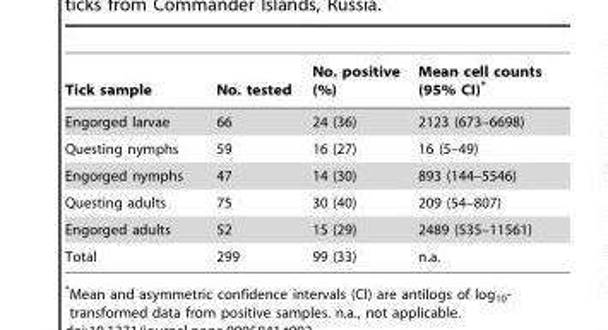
<table><thead><tr><td>Tick sample</td><td>No. tested</td><td>No. positive (%)</td><td>Mean cell counts (95% CI)*</td></tr></thead><tbody><tr><td>Engorged larvae</td><td>66</td><td>24 (36)</td><td>2123 (673–6698)</td></tr><tr><td>Questing nymphs</td><td>59</td><td>16 (27)</td><td>16 (5–49)</td></tr><tr><td>Engorged nymphs</td><td>47</td><td>14 (30)</td><td>893 (144–5546)</td></tr><tr><td>Questing adults</td><td>75</td><td>30 (40)</td><td>209 (54–807)</td></tr><tr><td>Engorged adults</td><td>52</td><td>15 (29)</td><td>2489 (535–11561)</td></tr><tr><td>Total</td><td>299</td><td>99 (33)</td><td>n.a.</td></tr></tbody></table>